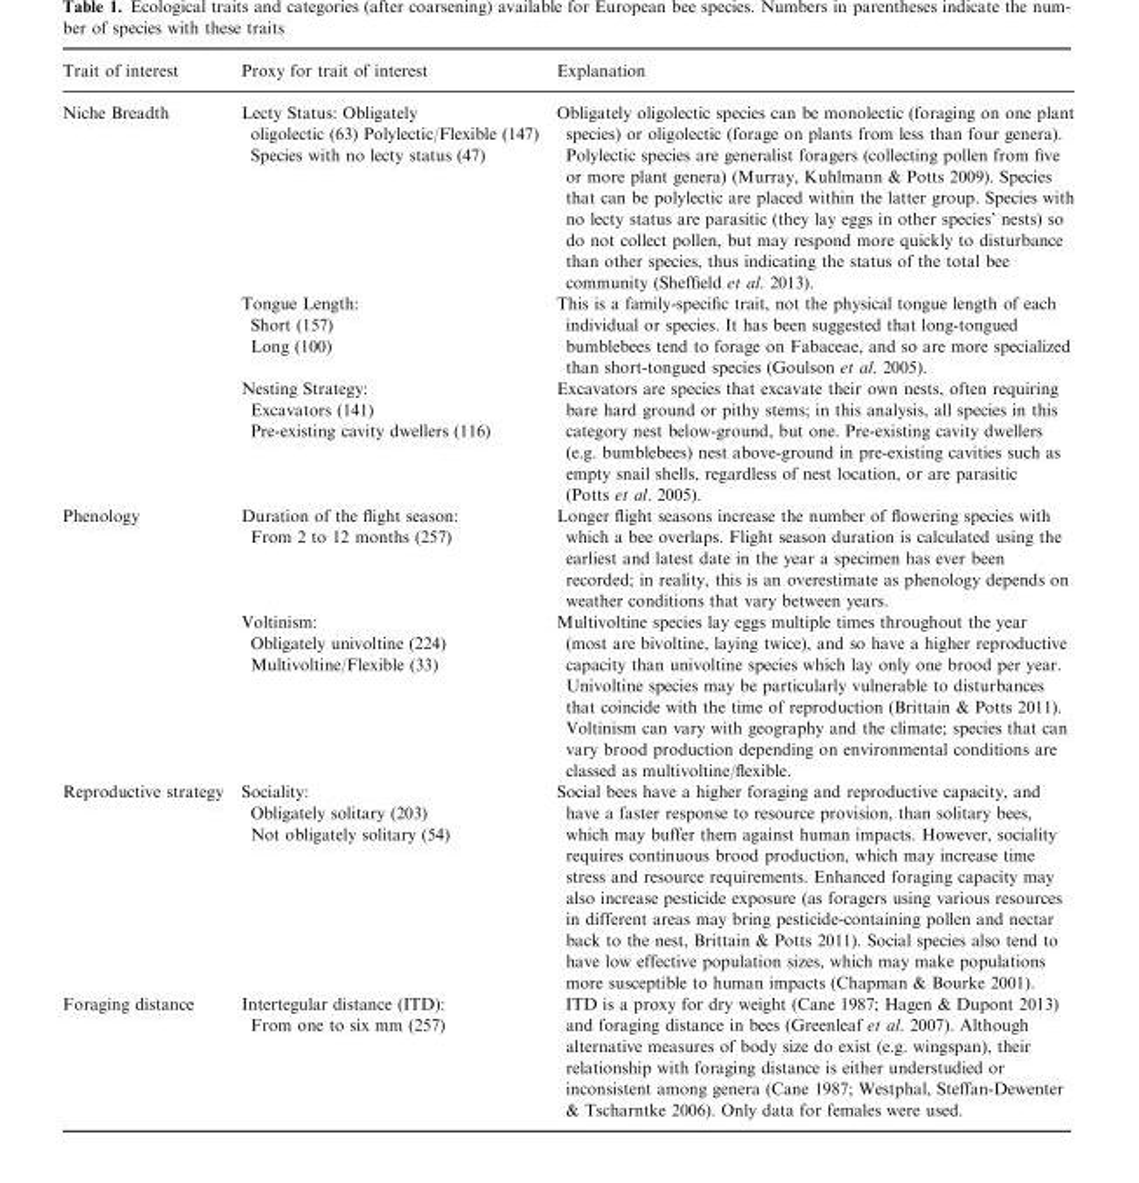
<table><thead><tr><td>Trait of interest</td><td>Proxy for trait of interest</td><td>Explanation</td></tr></thead><tbody><tr><td rowspan="3">Niche Breadth</td><td>Lecty Status: Obligately oligolectic (63) Polylectic/Flexible (147) Species with no lecty status (47)</td><td>Obligately oligolectic species can be monolectic (foraging on one plant species) or oligolectic (forage on plants from less than four genera). Polylectic species are generalist foragers (collecting pollen from five or more plant genera) (Murray, Kuhlmann &amp; Potts 2009). Species that can be polylectic are placed within the latter group. Species with no lecty status are parasitic (they lay eggs in other species’ nests) so do not collect pollen, but may respond more quickly to disturbance than other species, thus indicating the status of the total bee community (Sheffield et al. 2013).</td></tr><tr><td>Tongue Length: Short (157) Long (100)</td><td>This is a family-specific trait, not the physical tongue length of each individual or species. It has been suggested that long-tongued bumblebees tend to forage on Fabaceae, and so are more specialized than short-tongued species (Goulson et al. 2005).</td></tr><tr><td>Nesting Strategy: Excavators (141) Pre-existing cavity dwellers (116)</td><td>Excavators are species that excavate their own nests, often requiring bare hard ground or pithy stems; in this analysis, all species in this category nest below-ground, but one. Pre-existing cavity dwellers (e.g. bumblebees) nest above-ground in pre-existing cavities such as empty snail shells, regardless of nest location, or are parasitic (Potts et al. 2005).</td></tr><tr><td rowspan="2">Phenology</td><td>Duration of the flight season: From 2 to 12 months (257)</td><td>Longer flight seasons increase the number of flowering species with which a bee overlaps. Flight season duration is calculated using the earliest and latest date in the year a specimen has ever been recorded; in reality, this is an overestimate as phenology depends on weather conditions that vary between years.</td></tr><tr><td>Voltinism: Obligately univoltine (224) Multivoltine/Flexible (33)</td><td>Multivoltine species lay eggs multiple times throughout the year (most are bivoltine, laying twice), and so have a higher reproductive capacity than univoltine species which lay only one brood per year. Univoltine species may be particularly vulnerable to disturbances that coincide with the time of reproduction (Brittain &amp; Potts 2011). Voltinism can vary with geography and the climate; species that can vary brood production depending on environmental conditions are classed as multivoltine/flexible.</td></tr><tr><td>Reproductive strategy</td><td>Sociality: Obligately solitary (203) Not obligately solitary (54)</td><td>Social bees have a higher foraging and reproductive capacity, and have a faster response to resource provision, than solitary bees, which may buffer them against human impacts. However, sociality requires continuous brood production, which may increase time stress and resource requirements. Enhanced foraging capacity may also increase pesticide exposure (as foragers using various resources in different areas may bring pesticide-containing pollen and nectar back to the nest, Brittain &amp; Potts 2011). Social species also tend to have low effective population sizes, which may make populations more susceptible to human impacts (Chapman &amp; Bourke 2001).</td></tr><tr><td>Foraging distance</td><td>Intertegular distance (ITD): From one to six mm (257)</td><td>ITD is a proxy for dry weight (Cane 1987; Hagen &amp; Dupont 2013) and foraging distance in bees (Greenleaf et al. 2007). Although alternative measures of body size do exist (e.g. wingspan), their relationship with foraging distance is either understudied or inconsistent among genera (Cane 1987; Westphal, Steffan-Dewenter &amp; Tscharntke 2006). Only data for females were used.</td></tr></tbody></table>